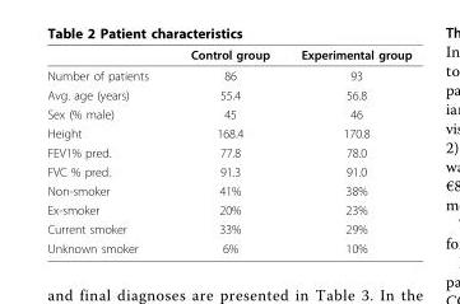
<table><thead><tr><td></td><td>Control group</td><td>Experimental group</td></tr></thead><tbody><tr><td>Number of patients</td><td>86</td><td>93</td></tr><tr><td>Avg. age (years)</td><td>55.4</td><td>56.8</td></tr><tr><td>Sex (% male)</td><td>45</td><td>46</td></tr><tr><td>Height</td><td>168.4</td><td>170.8</td></tr><tr><td>FEV1% pred.</td><td>77.8</td><td>78.0</td></tr><tr><td>FVC % pred.</td><td>91.3</td><td>91.0</td></tr><tr><td>Non-smoker</td><td>41%</td><td>38%</td></tr><tr><td>Ex-smoker</td><td>20%</td><td>23%</td></tr><tr><td>Current smoker</td><td>33%</td><td>29%</td></tr><tr><td>Unknown smoker</td><td>6%</td><td>10%</td></tr></tbody></table>